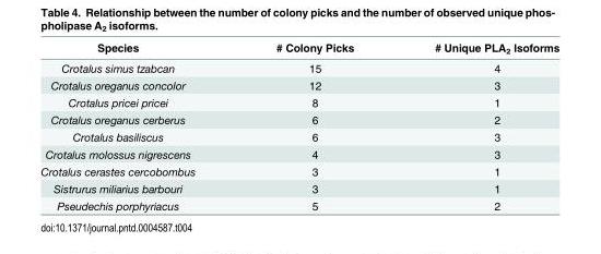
<table><thead><tr><td>Species</td><td># Colony Picks</td><td># Unique PLA<sub>2</sub> Isoforms</td></tr></thead><tbody><tr><td>Crotalus simus tzabcan</td><td>15</td><td>4</td></tr><tr><td>Crotalus oreganus concolor</td><td>12</td><td>3</td></tr><tr><td>Crotalus pricei pricei</td><td>8</td><td>1</td></tr><tr><td>Crotalus oreganus cerberus</td><td>6</td><td>2</td></tr><tr><td>Crotalus basiliscus</td><td>6</td><td>3</td></tr><tr><td>Crotalus molossus nigrescens</td><td>4</td><td>3</td></tr><tr><td>Crotalus cerastes cercobombus</td><td>3</td><td>1</td></tr><tr><td>Sistrurus miliarius barbouri</td><td>3</td><td>1</td></tr><tr><td>Pseudechis porphyriacus</td><td>5</td><td>2</td></tr></tbody></table>